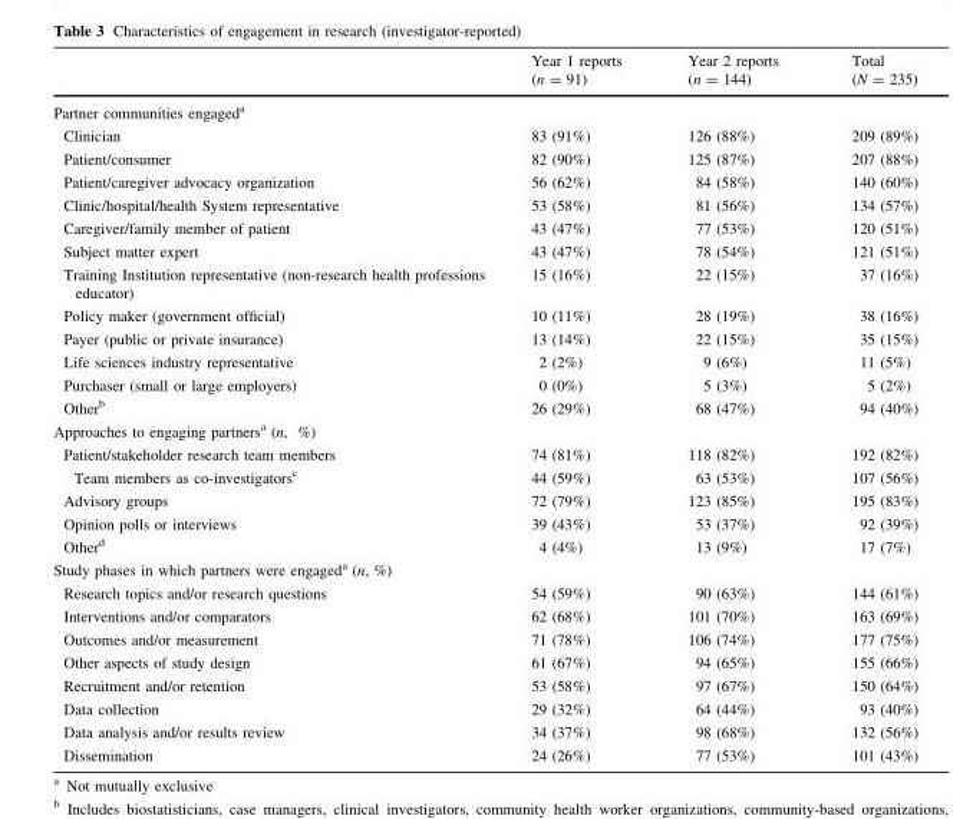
<table><thead><tr><td></td><td>Year 1 reports (n = 91)</td><td>Year 2 reports (n = 144)</td><td>Total (N = 235)</td></tr></thead><tbody><tr><td colspan="4">Partner communities engaged<sup>a</sup></td></tr><tr><td>Clinician</td><td>83 (91%)</td><td>126 (88%)</td><td>209 (89%)</td></tr><tr><td>Patient/consumer</td><td>82 (90%)</td><td>125 (87%)</td><td>207 (88%)</td></tr><tr><td>Patient/caregiver advocacy organization</td><td>56 (62%)</td><td>84 (58%)</td><td>140 (60%)</td></tr><tr><td>Clinic/hospital/health System representative</td><td>53 (58%)</td><td>81 (56%)</td><td>134 (57%)</td></tr><tr><td>Caregiver/family member of patient</td><td>43 (47%)</td><td>77 (53%)</td><td>120 (51%)</td></tr><tr><td>Subject matter expert</td><td>43 (47%)</td><td>78 (54%)</td><td>121 (51%)</td></tr><tr><td>Training Institution representative (non-research health professions educator)</td><td>15 (16%)</td><td>22 (15%)</td><td>37 (16%)</td></tr><tr><td>Policy maker (government official)</td><td>10 (11%)</td><td>28 (19%)</td><td>38 (16%)</td></tr><tr><td>Payer (public or private insurance)</td><td>13 (14%)</td><td>22 (15%)</td><td>35 (15%)</td></tr><tr><td>Life sciences industry representative</td><td>2 (2%)</td><td>9 (6%)</td><td>11 (5%)</td></tr><tr><td>Purchaser (small or large employers)</td><td>0 (0%)</td><td>5 (3%)</td><td>5 (2%)</td></tr><tr><td>Other<sup>b</sup></td><td>26 (29%)</td><td>68 (47%)</td><td>94 (40%)</td></tr><tr><td colspan="4">Approaches to engaging partners<sup>a</sup> (n, %)</td></tr><tr><td>Patient/stakeholder research team members</td><td>74 (81%)</td><td>118 (82%)</td><td>192 (82%)</td></tr><tr><td>Team members as co-investigators<sup>c</sup></td><td>44 (59%)</td><td>63 (53%)</td><td>107 (56%)</td></tr><tr><td>Advisory groups</td><td>72 (79%)</td><td>123 (85%)</td><td>195 (83%)</td></tr><tr><td>Opinion polls or interviews</td><td>39 (43%)</td><td>53 (37%)</td><td>92 (39%)</td></tr><tr><td>Other<sup>d</sup></td><td>4 (4%)</td><td>13 (9%)</td><td>17 (7%)</td></tr><tr><td colspan="4">Study phases in which partners were engaged<sup>a</sup> (n, %)</td></tr><tr><td>Research topics and/or research questions</td><td>54 (59%)</td><td>90 (63%)</td><td>144 (61%)</td></tr><tr><td>Interventions and/or comparators</td><td>62 (68%)</td><td>101 (70%)</td><td>163 (69%)</td></tr><tr><td>Outcomes and/or measurement</td><td>71 (78%)</td><td>106 (74%)</td><td>177 (75%)</td></tr><tr><td>Other aspects of study design</td><td>61 (67%)</td><td>94 (65%)</td><td>155 (66%)</td></tr><tr><td>Recruitment and/or retention</td><td>53 (58%)</td><td>97 (67%)</td><td>150 (64%)</td></tr><tr><td>Data collection</td><td>29 (32%)</td><td>64 (44%)</td><td>93 (40%)</td></tr><tr><td>Data analysis and/or results review</td><td>34 (37%)</td><td>98 (68%)</td><td>132 (56%)</td></tr><tr><td>Dissemination</td><td>24 (26%)</td><td>77 (53%)</td><td>101 (43%)</td></tr></tbody></table>